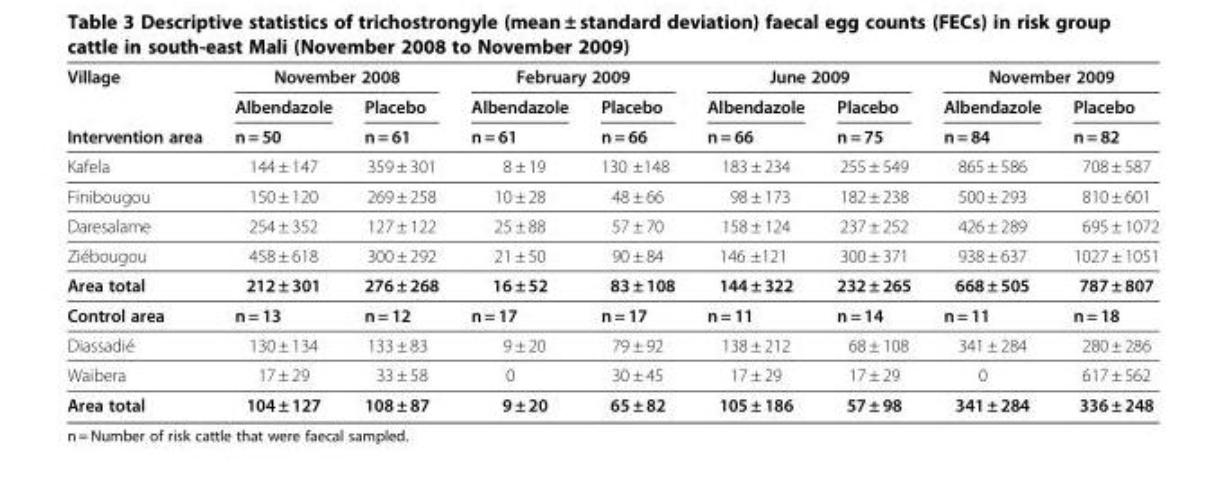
<table><thead><tr><td rowspan="3">Village Intervention area</td><td colspan="2">November 2008</td><td colspan="2">February 2009</td><td colspan="2">June 2009</td><td colspan="2">November 2009</td></tr><tr><td rowspan="2">Albendazole n = 50</td><td rowspan="2">Placebo n = 61</td><td rowspan="2">Albendazole n = 61</td><td rowspan="2">Placebo n = 66</td><td rowspan="2">Albendazole n = 66</td><td rowspan="2">Placebo n = 75</td><td rowspan="2">Albendazole n = 84</td><td rowspan="2">Placebo n = 82</td></tr><tr></tr></thead><tbody><tr><td>Kafela</td><td>144 ± 147</td><td>359 ± 301</td><td>8 ± 19</td><td>130 ±148</td><td>183 ± 234</td><td>255 ± 549</td><td>865 ± 586</td><td>708 ± 587</td></tr><tr><td>Finibougou</td><td>150 ± 120</td><td>269 ± 258</td><td>10 ± 28</td><td>48 ± 66</td><td>98 ± 173</td><td>182 ± 238</td><td>500 ± 293</td><td>810 ± 601</td></tr><tr><td>Daresalame</td><td>254 ± 352</td><td>127 ± 122</td><td>25 ± 88</td><td>57 ± 70</td><td>158 ± 124</td><td>237 ± 252</td><td>426 ± 289</td><td>695 ± 1072</td></tr><tr><td>Ziébougou</td><td>458 ± 618</td><td>300 ± 292</td><td>21 ± 50</td><td>90 ± 84</td><td>146 ±121</td><td>300 ± 371</td><td>938 ± 637</td><td>1027 ± 1051</td></tr><tr><td>Area total</td><td>212 ± 301</td><td>276 ± 268</td><td>16 ± 52</td><td>83 ± 108</td><td>144 ± 322</td><td>232 ± 265</td><td>668 ± 505</td><td>787 ± 807</td></tr><tr><td>Control area</td><td>n = 13</td><td>n = 12</td><td>n = 17</td><td>n = 17</td><td>n = 11</td><td>n = 14</td><td>n = 11</td><td>n = 18</td></tr><tr><td>Diassadié</td><td>130 ± 134</td><td>133 ± 83</td><td>9 ± 20</td><td>79 ± 92</td><td>138 ± 212</td><td>68 ± 108</td><td>341 ± 284</td><td>280 ± 286</td></tr><tr><td>Waibera</td><td>17 ± 29</td><td>33 ± 58</td><td>0</td><td>30 ± 45</td><td>17 ± 29</td><td>17 ± 29</td><td>0</td><td>617 ± 562</td></tr><tr><td>Area total</td><td>104 ± 127</td><td>108 ± 87</td><td>9 ± 20</td><td>65 ± 82</td><td>105 ± 186</td><td>57 ± 98</td><td>341 ± 284</td><td>336 ± 248</td></tr></tbody></table>